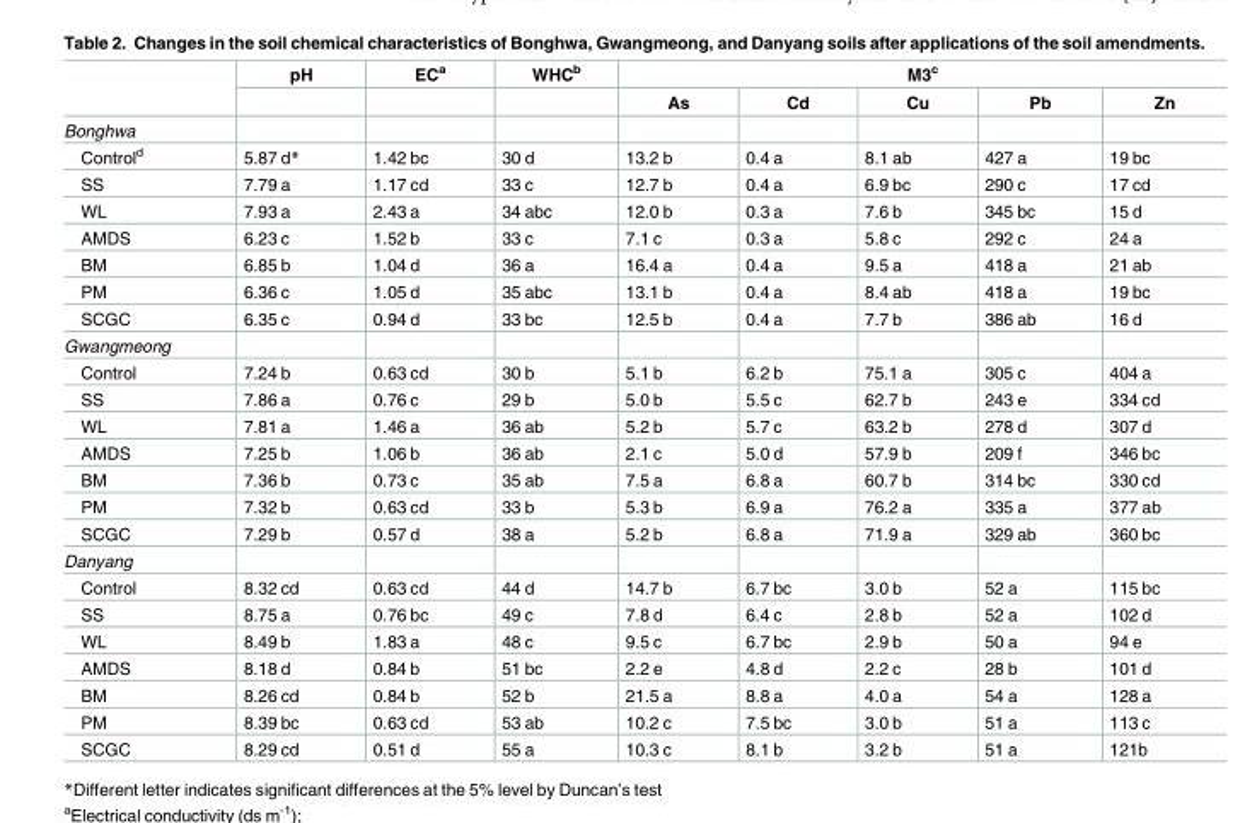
<table><thead><tr><td rowspan="2"></td><td rowspan="2">pH</td><td rowspan="2">EC<sup>a</sup></td><td rowspan="2">WHC<sup>b</sup></td><td colspan="5">M3<sup>c</sup></td></tr><tr><td>As</td><td>Cd</td><td>Cu</td><td>Pb</td><td>Zn</td></tr></thead><tbody><tr><td colspan="9">Bonghwa</td></tr><tr><td>Control<sup>d</sup></td><td>5.87 d*</td><td>1.42 bc</td><td>30 d</td><td>13.2 b</td><td>0.4 a</td><td>8.1 ab</td><td>427 a</td><td>19 bc</td></tr><tr><td>SS</td><td>7.79 a</td><td>1.17 cd</td><td>33 c</td><td>12.7 b</td><td>0.4 a</td><td>6.9 bc</td><td>290 c</td><td>17 cd</td></tr><tr><td>WL</td><td>7.93 a</td><td>2.43 a</td><td>34 abc</td><td>12.0 b</td><td>0.3 a</td><td>7.6 b</td><td>345 bc</td><td>15 d</td></tr><tr><td>AMDS</td><td>6.23 c</td><td>1.52 b</td><td>33 c</td><td>7.1 c</td><td>0.3 a</td><td>5.8 c</td><td>292 c</td><td>24 a</td></tr><tr><td>BM</td><td>6.85 b</td><td>1.04 d</td><td>36 a</td><td>16.4 a</td><td>0.4 a</td><td>9.5 a</td><td>418 a</td><td>21 ab</td></tr><tr><td>PM</td><td>6.36 c</td><td>1.05 d</td><td>35 abc</td><td>13.1 b</td><td>0.4 a</td><td>8.4 ab</td><td>418 a</td><td>19 bc</td></tr><tr><td>SCGC</td><td>6.35 c</td><td>0.94 d</td><td>33 bc</td><td>12.5 b</td><td>0.4 a</td><td>7.7 b</td><td>386 ab</td><td>16 d</td></tr><tr><td colspan="9">Gwangmeong</td></tr><tr><td>Control</td><td>7.24 b</td><td>0.63 cd</td><td>30 b</td><td>5.1 b</td><td>6.2 b</td><td>75.1 a</td><td>305 c</td><td>404 a</td></tr><tr><td>SS</td><td>7.86 a</td><td>0.76 c</td><td>29 b</td><td>5.0 b</td><td>5.5 c</td><td>62.7 b</td><td>243 e</td><td>334 cd</td></tr><tr><td>WL</td><td>7.81 a</td><td>1.46 a</td><td>36 ab</td><td>5.2 b</td><td>5.7 c</td><td>63.2 b</td><td>278 d</td><td>307 d</td></tr><tr><td>AMDS</td><td>7.25 b</td><td>1.06 b</td><td>36 ab</td><td>2.1 c</td><td>5.0 d</td><td>57.9 b</td><td>209 f</td><td>346 bc</td></tr><tr><td>BM</td><td>7.36 b</td><td>0.73 c</td><td>35 ab</td><td>7.5 a</td><td>6.8 a</td><td>60.7 b</td><td>314 bc</td><td>330 cd</td></tr><tr><td>PM</td><td>7.32 b</td><td>0.63 cd</td><td>33 b</td><td>5.3 b</td><td>6.9 a</td><td>76.2 a</td><td>335 a</td><td>377 ab</td></tr><tr><td>SCGC</td><td>7.29 b</td><td>0.57 d</td><td>38 a</td><td>5.2 b</td><td>6.8 a</td><td>71.9 a</td><td>329 ab</td><td>360 bc</td></tr><tr><td colspan="9">Danyang</td></tr><tr><td>Control</td><td>8.32 cd</td><td>0.63 cd</td><td>44 d</td><td>14.7 b</td><td>6.7 bc</td><td>3.0 b</td><td>52 a</td><td>115 bc</td></tr><tr><td>SS</td><td>8.75 a</td><td>0.76 bc</td><td>49 c</td><td>7.8 d</td><td>6.4 c</td><td>2.8 b</td><td>52 a</td><td>102 d</td></tr><tr><td>WL</td><td>8.49 b</td><td>1.83 a</td><td>48 c</td><td>9.5 c</td><td>6.7 bc</td><td>2.9 b</td><td>50 a</td><td>94 e</td></tr><tr><td>AMDS</td><td>8.18 d</td><td>0.84 b</td><td>51 bc</td><td>2.2 e</td><td>4.8 d</td><td>2.2 c</td><td>28 b</td><td>101 d</td></tr><tr><td>BM</td><td>8.26 cd</td><td>0.84 b</td><td>52 b</td><td>21.5 a</td><td>8.8 a</td><td>4.0 a</td><td>54 a</td><td>128 a</td></tr><tr><td>PM</td><td>8.39 bc</td><td>0.63 cd</td><td>53 ab</td><td>10.2 c</td><td>7.5 bc</td><td>3.0 b</td><td>51 a</td><td>113 c</td></tr><tr><td>SCGC</td><td>8.29 cd</td><td>0.51 d</td><td>55 a</td><td>10.3 c</td><td>8.1 b</td><td>3.2 b</td><td>51 a</td><td>121b</td></tr></tbody></table>